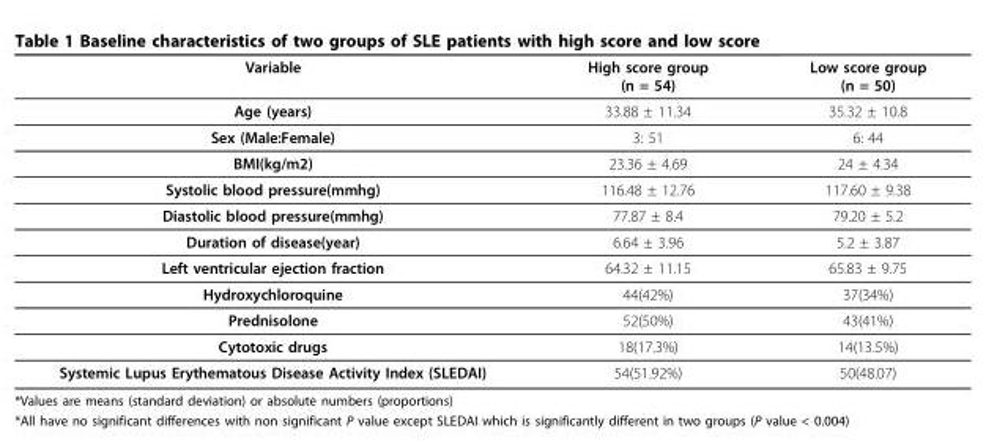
<table><thead><tr><td>Variable</td><td>High score group (n = 54)</td><td>Low score group (n = 50)</td></tr></thead><tbody><tr><td>Age (years)</td><td>33.88 ± 11.34</td><td>35.32 ± 10.8</td></tr><tr><td>Sex (Male:Female)</td><td>3: 51</td><td>6: 44</td></tr><tr><td>BMI(kg/m2)</td><td>23.36 ± 4.69</td><td>24 ± 4.34</td></tr><tr><td>Systolic blood pressure(mmhg)</td><td>116.48 ± 12.76</td><td>117.60 ± 9.38</td></tr><tr><td>Diastolic blood pressure(mmhg)</td><td>77.87 ± 8.4</td><td>79.20 ± 5.2</td></tr><tr><td>Duration of disease(year)</td><td>6.64 ± 3.96</td><td>5.2 ± 3.87</td></tr><tr><td>Left ventricular ejection fraction</td><td>64.32 ± 11.15</td><td>65.83 ± 9.75</td></tr><tr><td>Hydroxychloroquine</td><td>44(42%)</td><td>37(34%)</td></tr><tr><td>Prednisolone</td><td>52(50%)</td><td>43(41%)</td></tr><tr><td>Cytotoxic drugs</td><td>18(17.3%)</td><td>14(13.5%)</td></tr><tr><td>Systemic Lupus Erythematous Disease Activity Index (SLEDAI)</td><td>54(51.92%)</td><td>50(48.07)</td></tr></tbody></table>